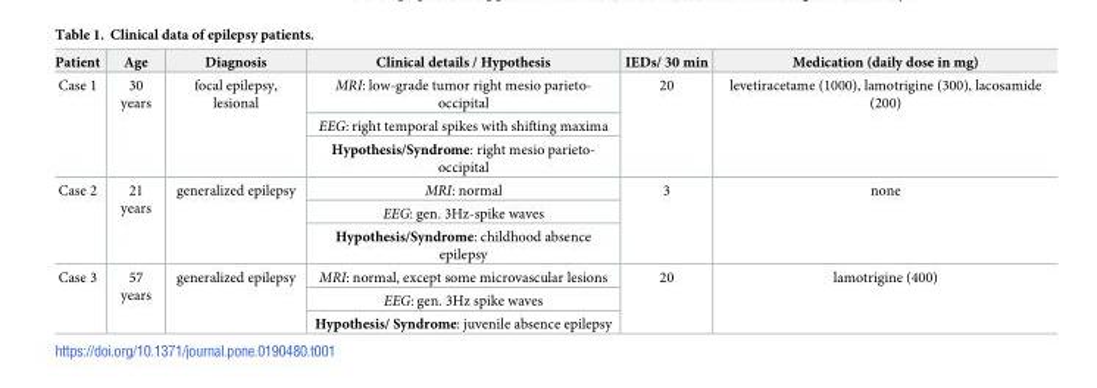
<table><thead><tr><td>Patient</td><td>Age</td><td>Diagnosis</td><td>Clinical details / Hypothesis</td><td>IEDs/ 30 min</td><td>Medication (daily dose in mg)</td></tr></thead><tbody><tr><td rowspan="3">Case 1</td><td rowspan="3">30 years</td><td rowspan="3">focal epilepsy, lesional</td><td>MRI: low-grade tumor right mesio parieto- occipital</td><td rowspan="3">20</td><td rowspan="3">levetiracetame (1000), lamotrigine (300), lacosamide (200)</td></tr><tr><td>EEG: right temporal spikes with shifting maxima</td></tr><tr><td>Hypothesis/Syndrome: right mesio parieto- occipital</td></tr><tr><td rowspan="3">Case 2</td><td rowspan="3">21 years</td><td rowspan="3">generalized epilepsy</td><td>MRI: normal</td><td rowspan="3">3</td><td rowspan="3">none</td></tr><tr><td>EEG: gen. 3Hz-spike waves</td></tr><tr><td>Hypothesis/Syndrome: childhood absence epilepsy</td></tr><tr><td rowspan="3">Case 3</td><td rowspan="3">57 years</td><td rowspan="3">generalized epilepsy</td><td>MRI: normal, except some microvascular lesions</td><td rowspan="3">20</td><td rowspan="3">lamotrigine (400)</td></tr><tr><td>EEG: gen. 3Hz spike waves</td></tr><tr><td>Hypothesis/ Syndrome: juvenile absence epilepsy</td></tr></tbody></table>